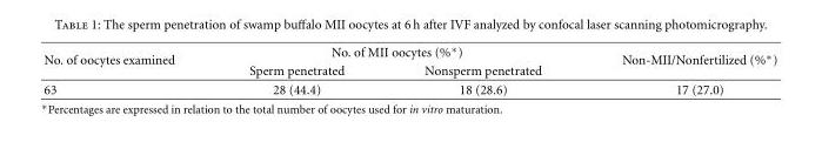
<table><thead><tr><td rowspan="2">No. of oocytes examined</td><td colspan="2">No. of MII oocytes (%∗)</td><td rowspan="2">Non-MII/Nonfertilized (%∗)</td></tr><tr><td>Sperm penetrated</td><td>Nonsperm penetrated</td></tr></thead><tbody><tr><td>63</td><td>28 (44.4)</td><td>18 (28.6)</td><td>17 (27.0)</td></tr></tbody></table>